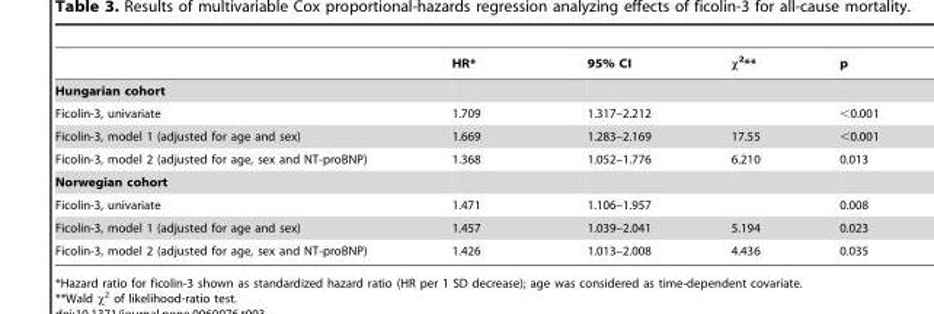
<table><thead><tr><td></td><td>HR*</td><td>95% CI</td><td>x2**</td><td>p</td></tr></thead><tbody><tr><td colspan="5">Hungarian cohort</td></tr><tr><td>Ficolin-3, univariate</td><td>1.709</td><td>1.317–2.212</td><td></td><td>&lt;0.001</td></tr><tr><td>Ficolin-3, model 1 (adjusted for age and sex)</td><td>1.669</td><td>1.283–2.169</td><td>17.55</td><td>&lt;0.001</td></tr><tr><td>Ficolin-3, model 2 (adjusted for age, sex and NT-proBNP)</td><td>1.368</td><td>1.052–1.776</td><td>6.210</td><td>0.013</td></tr><tr><td colspan="5">Norwegian cohort</td></tr><tr><td>Ficolin-3, univariate</td><td>1.471</td><td>1.106–1.957</td><td></td><td>0.008</td></tr><tr><td>Ficolin-3, model 1 (adjusted for age and sex)</td><td>1.457</td><td>1.039–2.041</td><td>5.194</td><td>0.023</td></tr><tr><td>Ficolin-3, model 2 (adjusted for age, sex and NT-proBNP)</td><td>1.426</td><td>1.013–2.008</td><td>4.436</td><td>0.035</td></tr></tbody></table>